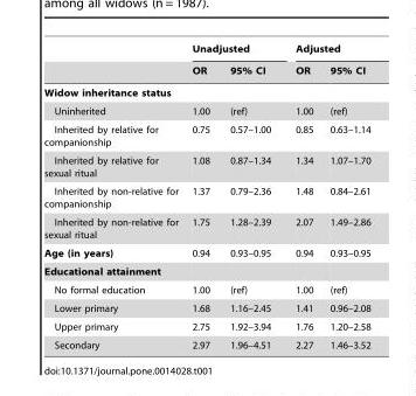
<table><thead><tr><td rowspan="2"></td><td colspan="2">Unadjusted</td><td colspan="2">Adjusted</td></tr><tr><td>OR</td><td>95% CI</td><td>OR</td><td>95% CI</td></tr></thead><tbody><tr><td colspan="5">Widow inheritance status</td></tr><tr><td>Uninherited</td><td>1.00</td><td>(ref)</td><td>1.00</td><td>(ref)</td></tr><tr><td>Inherited by relative for companionship</td><td>0.75</td><td>0.57–1.00</td><td>0.85</td><td>0.63–1.14</td></tr><tr><td>Inherited by relative for sexual ritual</td><td>1.08</td><td>0.87–1.34</td><td>1.34</td><td>1.07–1.70</td></tr><tr><td>Inherited by non-relative for companionship</td><td>1.37</td><td>0.79–2.36</td><td>1.48</td><td>0.84–2.61</td></tr><tr><td>Inherited by non-relative for sexual ritual</td><td>1.75</td><td>1.28–2.39</td><td>2.07</td><td>1.49–2.86</td></tr><tr><td>Age (in years)</td><td>0.94</td><td>0.93–0.95</td><td>0.94</td><td>0.93–0.95</td></tr><tr><td colspan="5">Educational attainment</td></tr><tr><td>No formal education</td><td>1.00</td><td>(ref)</td><td>1.00</td><td>(ref)</td></tr><tr><td>Lower primary</td><td>1.68</td><td>1.16–2.45</td><td>1.41</td><td>0.96–2.08</td></tr><tr><td>Upper primary</td><td>2.75</td><td>1.92–3.94</td><td>1.76</td><td>1.20–2.58</td></tr><tr><td>Secondary</td><td>2.97</td><td>1.96–4.51</td><td>2.27</td><td>1.46–3.52</td></tr></tbody></table>